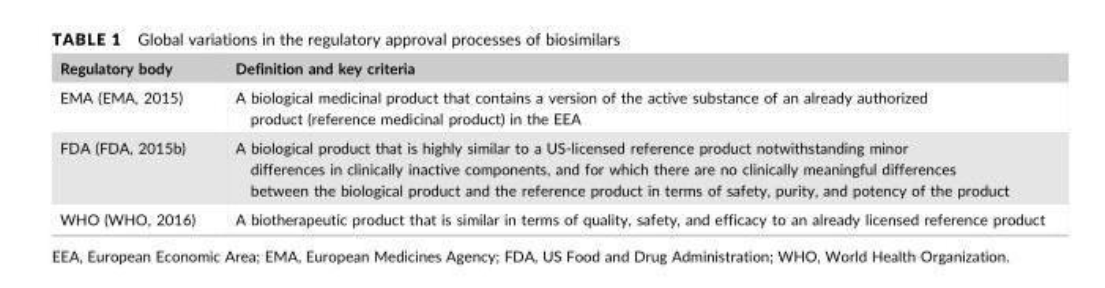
<table><thead><tr><td>Regulatory body</td><td>Definition and key criteria</td></tr></thead><tbody><tr><td>EMA (EMA, 2015)</td><td>A biological medicinal product that contains a version of the active substance of an already authorized product (reference medicinal product) in the EEA</td></tr><tr><td>FDA (FDA, 2015b)</td><td>A biological product that is highly similar to a US-licensed reference product notwithstanding minor differences in clinically inactive components, and for which there are no clinically meaningful differences between the biological product and the reference product in terms of safety, purity, and potency of the product</td></tr><tr><td>WHO (WHO, 2016)</td><td>A biotherapeutic product that is similar in terms of quality, safety, and efficacy to an already licensed reference product</td></tr></tbody></table>